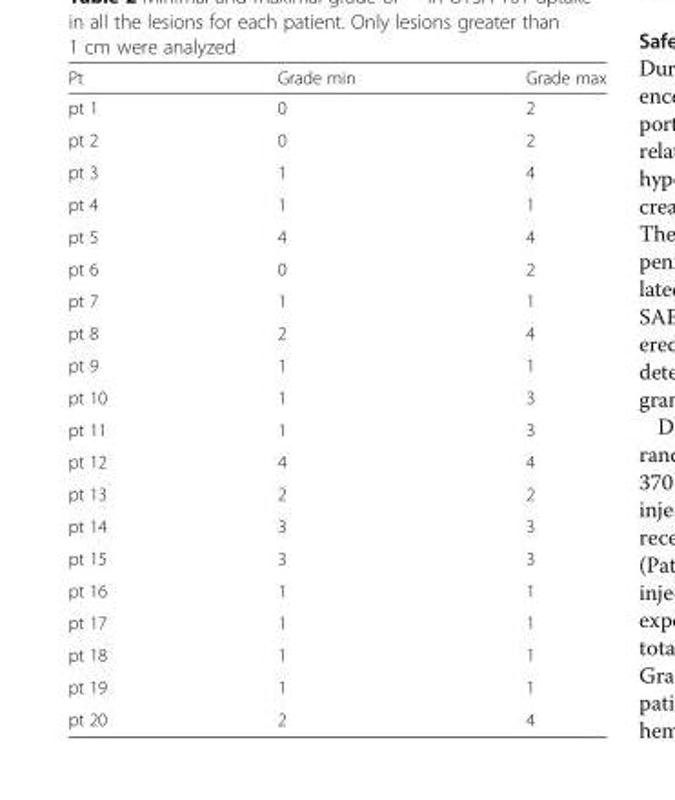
<table><thead><tr><td>Pt</td><td>Grade min</td><td>Grade max</td></tr></thead><tbody><tr><td>pt 1</td><td>0</td><td>2</td></tr><tr><td>pt 2</td><td>0</td><td>2</td></tr><tr><td>pt 3</td><td>1</td><td>4</td></tr><tr><td>pt 4</td><td>1</td><td>1</td></tr><tr><td>pt 5</td><td>4</td><td>4</td></tr><tr><td>pt 6</td><td>0</td><td>2</td></tr><tr><td>pt 7</td><td>1</td><td>1</td></tr><tr><td>pt 8</td><td>2</td><td>4</td></tr><tr><td>pt 9</td><td>1</td><td>1</td></tr><tr><td>pt 10</td><td>1</td><td>3</td></tr><tr><td>pt 11</td><td>1</td><td>3</td></tr><tr><td>pt 12</td><td>4</td><td>4</td></tr><tr><td>pt 13</td><td>2</td><td>2</td></tr><tr><td>pt 14</td><td>3</td><td>3</td></tr><tr><td>pt 15</td><td>3</td><td>3</td></tr><tr><td>pt 16</td><td>1</td><td>1</td></tr><tr><td>pt 17</td><td>1</td><td>1</td></tr><tr><td>pt 18</td><td>1</td><td>1</td></tr><tr><td>pt 19</td><td>1</td><td>1</td></tr><tr><td>pt 20</td><td>2</td><td>4</td></tr></tbody></table>